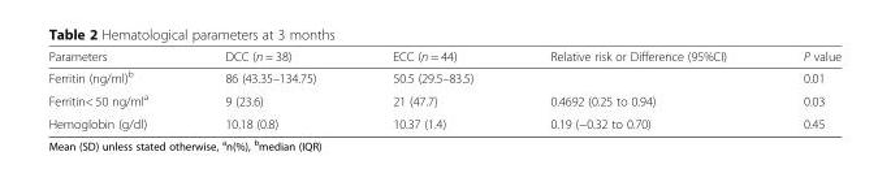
<table><thead><tr><td>Parameters</td><td>DCC (n = 38)</td><td>ECC (n = 44)</td><td>Relative risk or Difference (95%CI)</td><td>P value</td></tr></thead><tbody><tr><td>Ferritin (ng/ml)<sup>b</sup></td><td>86 (43.35–134.75)</td><td>50.5 (29.5–83.5)</td><td></td><td>0.01</td></tr><tr><td>Ferritin&lt; 50 ng/ml<sup>a</sup></td><td>9 (23.6)</td><td>21 (47.7)</td><td>0.4692 (0.25 to 0.94)</td><td>0.03</td></tr><tr><td>Hemoglobin (g/dl)</td><td>10.18 (0.8)</td><td>10.37 (1.4)</td><td>0.19 (−0.32 to 0.70)</td><td>0.45</td></tr></tbody></table>